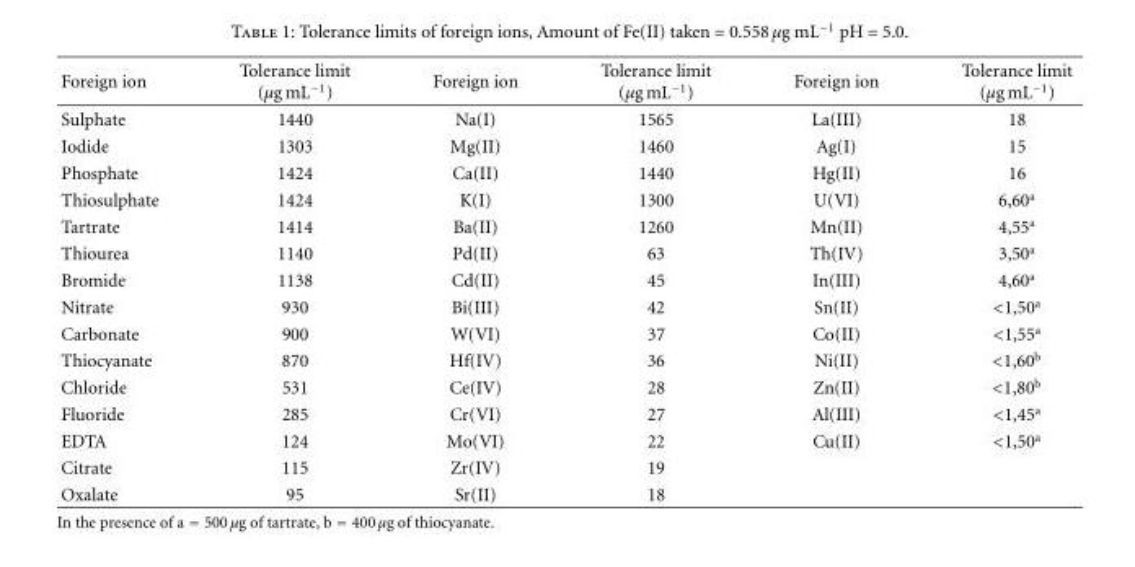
<table><thead><tr><td>Foreign ion</td><td>Tolerance limit (μg mL<sup>−1</sup>)</td><td>Foreign ion</td><td>Tolerance limit (μg mL<sup>−1</sup>)</td><td>Foreign ion</td><td>Tolerance limit (μg mL<sup>−1</sup>)</td></tr></thead><tbody><tr><td>Sulphate</td><td>1440</td><td>Na(I)</td><td>1565</td><td>La(III)</td><td>18</td></tr><tr><td>Iodide</td><td>1303</td><td>Mg(II)</td><td>1460</td><td>Ag(I)</td><td>15</td></tr><tr><td>Phosphate</td><td>1424</td><td>Ca(II)</td><td>1440</td><td>Hg(II)</td><td>16</td></tr><tr><td>Thiosulphate</td><td>1424</td><td>K(I)</td><td>1300</td><td>U(VI)</td><td>6,60<sup>a</sup></td></tr><tr><td>Tartrate</td><td>1414</td><td>Ba(II)</td><td>1260</td><td>Mn(II)</td><td>4,55<sup>a</sup></td></tr><tr><td>Thiourea</td><td>1140</td><td>Pd(II)</td><td>63</td><td>Th(IV)</td><td>3,50<sup>a</sup></td></tr><tr><td>Bromide</td><td>1138</td><td>Cd(II)</td><td>45</td><td>In(III)</td><td>4,60<sup>a</sup></td></tr><tr><td>Nitrate</td><td>930</td><td>Bi(III)</td><td>42</td><td>Sn(II)</td><td>&lt;1,50<sup>a</sup></td></tr><tr><td>Carbonate</td><td>900</td><td>W(VI)</td><td>37</td><td>Co(II)</td><td>&lt;1,55<sup>a</sup></td></tr><tr><td>Thiocyanate</td><td>870</td><td>Hf(IV)</td><td>36</td><td>Ni(II)</td><td>&lt;1,60<sup>b</sup></td></tr><tr><td>Chloride</td><td>531</td><td>Ce(IV)</td><td>28</td><td>Zn(II)</td><td>&lt;1,80<sup>b</sup></td></tr><tr><td>Fluoride</td><td>285</td><td>Cr(VI)</td><td>27</td><td>Al(III)</td><td>&lt;1,45<sup>a</sup></td></tr><tr><td>EDTA</td><td>124</td><td>Mo(VI)</td><td>22</td><td>Cu(II)</td><td>&lt;1,50<sup>a</sup></td></tr><tr><td>Citrate</td><td>115</td><td>Zr(IV)</td><td>19</td><td></td><td></td></tr><tr><td>Oxalate</td><td>95</td><td>Sr(II)</td><td>18</td><td></td><td></td></tr></tbody></table>